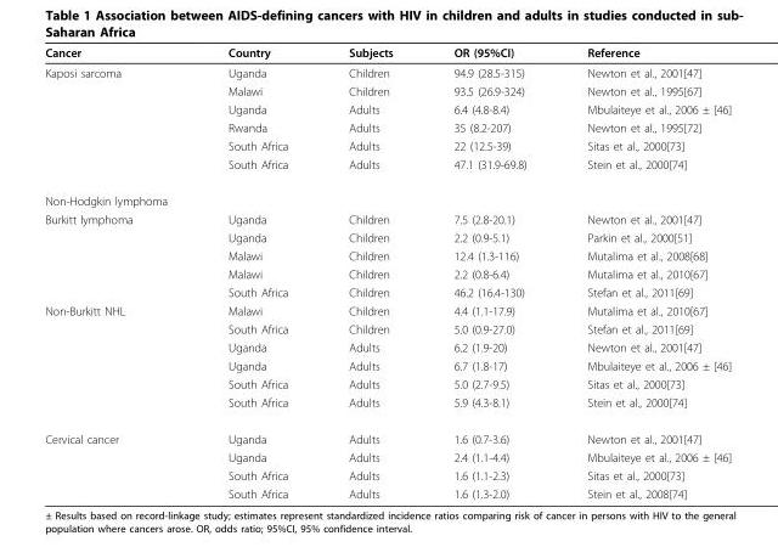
<table><thead><tr><td>Cancer</td><td>Country</td><td>Subjects</td><td>OR (95%CI)</td><td>Reference</td></tr></thead><tbody><tr><td rowspan="6">Kaposi sarcoma</td><td>Uganda</td><td>Children</td><td>94.9 (28.5-315)</td><td>Newton et al., 2001[47]</td></tr><tr><td>Malawi</td><td>Children</td><td>93.5 (26.9-324)</td><td>Newton et al., 1995[67]</td></tr><tr><td>Uganda</td><td>Adults</td><td>6.4 (4.8-8.4)</td><td>Mbulaiteye et al., 2006 ± [46]</td></tr><tr><td>Rwanda</td><td>Adults</td><td>35 (8.2-207)</td><td>Newton et al., 1995[72]</td></tr><tr><td>South Africa</td><td>Adults</td><td>22 (12.5-39)</td><td>Sitas et al., 2000[73]</td></tr><tr><td>South Africa</td><td>Adults</td><td>47.1 (31.9-69.8)</td><td>Stein et al., 2000[74]</td></tr><tr><td colspan="5">Non-Hodgkin lymphoma</td></tr><tr><td rowspan="5">Burkitt lymphoma</td><td>Uganda</td><td>Children</td><td>7.5 (2.8-20.1)</td><td>Newton et al., 2001[47]</td></tr><tr><td>Uganda</td><td>Children</td><td>2.2 (0.9-5.1)</td><td>Parkin et al., 2000[51]</td></tr><tr><td>Malawi</td><td>Children</td><td>12.4 (1.3-116)</td><td>Mutalima et al., 2008[68]</td></tr><tr><td>Malawi</td><td>Children</td><td>2.2 (0.8-6.4)</td><td>Mutalima et al., 2010[67]</td></tr><tr><td>South Africa</td><td>Children</td><td>46.2 (16.4-130)</td><td>Stefan et al., 2011[69]</td></tr><tr><td rowspan="6">Non-Burkitt NHL</td><td>Malawi</td><td>Children</td><td>4.4 (1.1-17.9)</td><td>Mutalima et al., 2010[67]</td></tr><tr><td>South Africa</td><td>Children</td><td>5.0 (0.9-27.0)</td><td>Stefan et al., 2011[69]</td></tr><tr><td>Uganda</td><td>Adults</td><td>6.2 (1.9-20)</td><td>Newton et al., 2001[47]</td></tr><tr><td>Uganda</td><td>Adults</td><td>6.7 (1.8-17)</td><td>Mbulaiteye et al., 2006 ± [46]</td></tr><tr><td>South Africa</td><td>Adults</td><td>5.0 (2.7-9.5)</td><td>Sitas et al., 2000[73]</td></tr><tr><td>South Africa</td><td>Adults</td><td>5.9 (4.3-8.1)</td><td>Stein et al., 2000[74]</td></tr><tr><td rowspan="4">Cervical cancer</td><td>Uganda</td><td>Adults</td><td>1.6 (0.7-3.6)</td><td>Newton et al., 2001[47]</td></tr><tr><td>Uganda</td><td>Adults</td><td>2.4 (1.1-4.4)</td><td>Mbulaiteye et al., 2006 ± [46]</td></tr><tr><td>South Africa</td><td>Adults</td><td>1.6 (1.1-2.3)</td><td>Sitas et al., 2000[73]</td></tr><tr><td>South Africa</td><td>Adults</td><td>1.6 (1.3-2.0)</td><td>Stein et al., 2008[74]</td></tr></tbody></table>